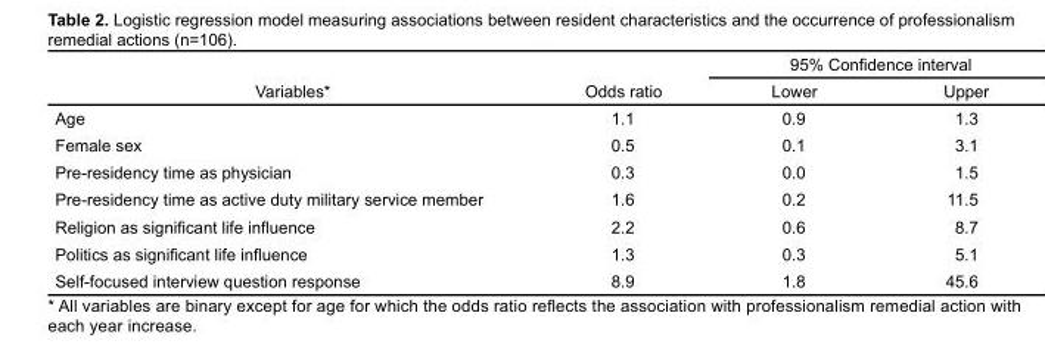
<table><thead><tr><td rowspan="2">Variables*</td><td rowspan="2">Odds ratio</td><td colspan="2">95% Confidence interval</td></tr><tr><td>Lower</td><td>Upper</td></tr></thead><tbody><tr><td>Age</td><td>1.1</td><td>0.9</td><td>1.3</td></tr><tr><td>Female sex</td><td>0.5</td><td>0.1</td><td>3.1</td></tr><tr><td>Pre-residency time as physician</td><td>0.3</td><td>0.0</td><td>1.5</td></tr><tr><td>Pre-residency time as active duty military service member</td><td>1.6</td><td>0.2</td><td>11.5</td></tr><tr><td>Religion as significant life influence</td><td>2.2</td><td>0.6</td><td>8.7</td></tr><tr><td>Politics as significant life influence</td><td>1.3</td><td>0.3</td><td>5.1</td></tr><tr><td>Self-focused interview question response</td><td>8.9</td><td>1.8</td><td>45.6</td></tr></tbody></table>